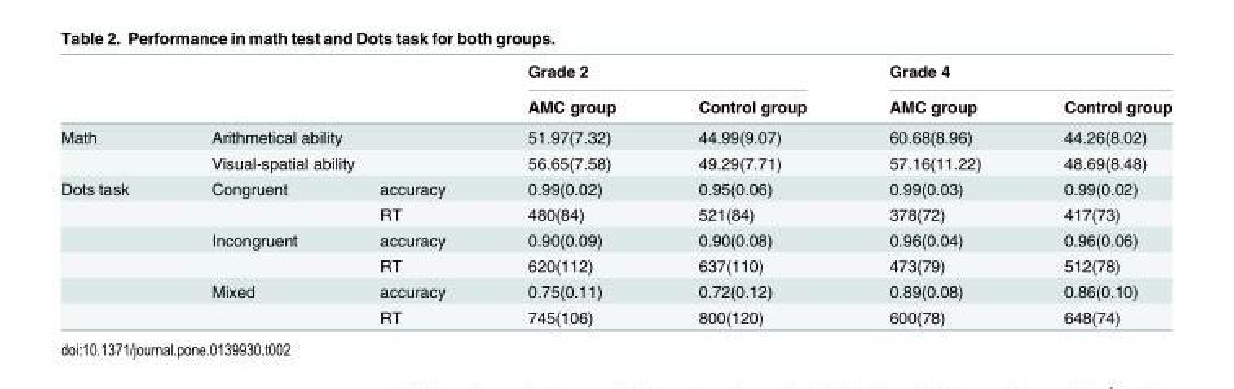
<table><thead><tr><td rowspan="2"></td><td rowspan="2"></td><td rowspan="2"></td><td colspan="2">Grade 2</td><td colspan="2">Grade 4</td></tr><tr><td>AMC group</td><td>Control group</td><td>AMC group</td><td>Control group</td></tr></thead><tbody><tr><td rowspan="2">Math</td><td colspan="2">Arithmetical ability</td><td>51.97(7.32)</td><td>44.99(9.07)</td><td>60.68(8.96)</td><td>44.26(8.02)</td></tr><tr><td colspan="2">Visual-spatial ability</td><td>56.65(7.58)</td><td>49.29(7.71)</td><td>57.16(11.22)</td><td>48.69(8.48)</td></tr><tr><td rowspan="6">Dots task</td><td>Congruent</td><td>accuracy</td><td>0.99(0.02)</td><td>0.95(0.06)</td><td>0.99(0.03)</td><td>0.99(0.02)</td></tr><tr><td></td><td>RT</td><td>480(84)</td><td>521(84)</td><td>378(72)</td><td>417(73)</td></tr><tr><td>Incongruent</td><td>accuracy</td><td>0.90(0.09)</td><td>0.90(0.08)</td><td>0.96(0.04)</td><td>0.96(0.06)</td></tr><tr><td></td><td>RT</td><td>620(112)</td><td>637(110)</td><td>473(79)</td><td>512(78)</td></tr><tr><td>Mixed</td><td>accuracy</td><td>0.75(0.11)</td><td>0.72(0.12)</td><td>0.89(0.08)</td><td>0.86(0.10)</td></tr><tr><td></td><td>RT</td><td>745(106)</td><td>800(120)</td><td>600(78)</td><td>648(74)</td></tr></tbody></table>